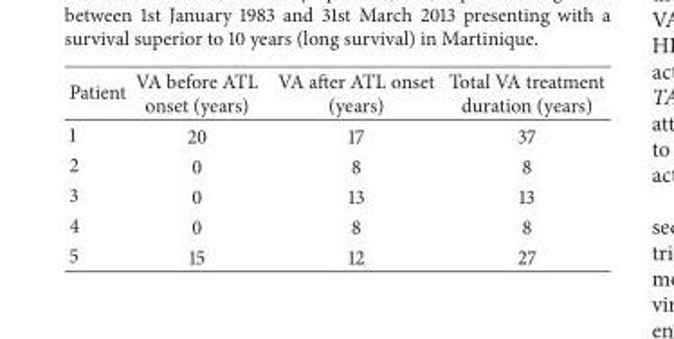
<table><thead><tr><td>Patient</td><td>VA before ATL onset (years)</td><td>VA after ATL onset (years)</td><td>Total VA treatment duration (years)</td></tr></thead><tbody><tr><td>1</td><td>20</td><td>17</td><td>37</td></tr><tr><td>2</td><td>0</td><td>8</td><td>8</td></tr><tr><td>3</td><td>0</td><td>13</td><td>13</td></tr><tr><td>4</td><td>0</td><td>8</td><td>8</td></tr><tr><td>5</td><td>15</td><td>12</td><td>27</td></tr></tbody></table>